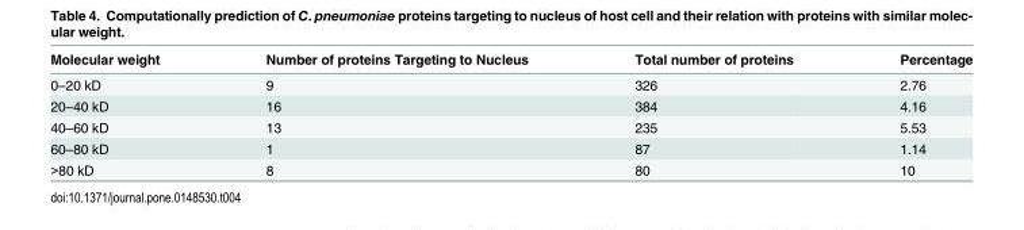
<table><thead><tr><td>Molecular weight</td><td>Number of proteins Targeting to Nucleus</td><td>Total number of proteins</td><td>Percentage</td></tr></thead><tbody><tr><td>0–20 kD</td><td>9</td><td>326</td><td>2.76</td></tr><tr><td>20–40 kD</td><td>16</td><td>384</td><td>4.16</td></tr><tr><td>40–60 kD</td><td>13</td><td>235</td><td>5.53</td></tr><tr><td>60–80 kD</td><td>1</td><td>87</td><td>1.14</td></tr><tr><td>&gt;80 kD</td><td>8</td><td>80</td><td>10</td></tr></tbody></table>